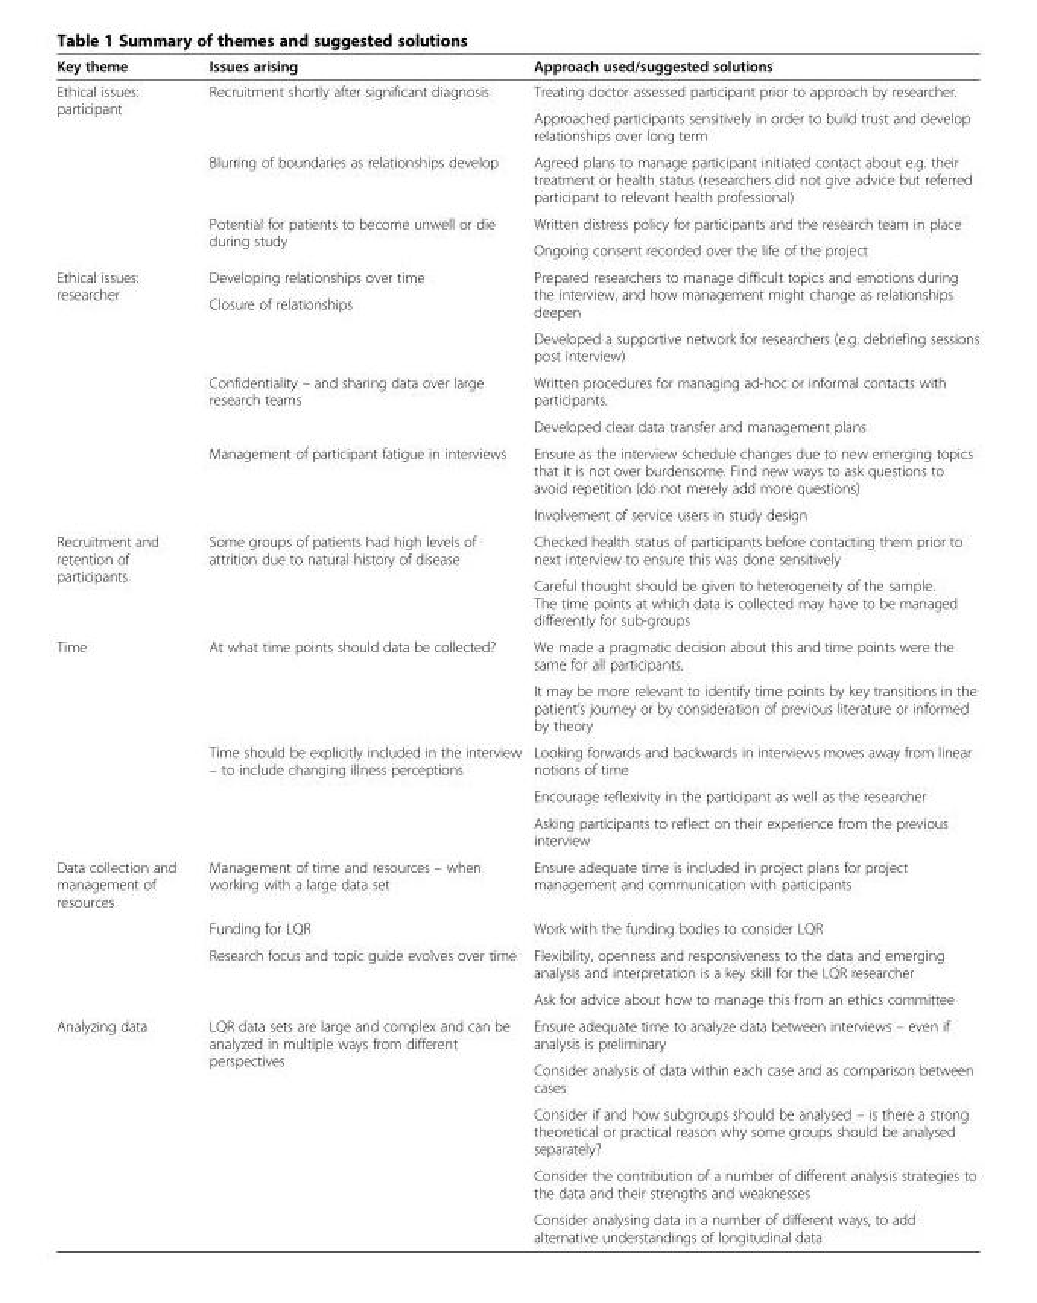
<table><thead><tr><td>Key theme</td><td>Issues arising</td><td>Approach used/suggested solutions</td></tr></thead><tbody><tr><td rowspan="5">Ethical issues: participant</td><td rowspan="2">Recruitment shortly after significant diagnosis</td><td>Treating doctor assessed participant prior to approach by researcher.</td></tr><tr><td>Approached participants sensitively in order to build trust and develop relationships over long term</td></tr><tr><td>Blurring of boundaries as relationships develop</td><td>Agreed plans to manage participant initiated contact about e.g. their treatment or health status (researchers did not give advice but referred participant to relevant health professional)</td></tr><tr><td rowspan="2">Potential for patients to become unwell or die during study</td><td>Written distress policy for participants and the research team in place</td></tr><tr><td>Ongoing consent recorded over the life of the project</td></tr><tr><td rowspan="7">Ethical issues: researcher</td><td>Developing relationships over time</td><td rowspan="2">Prepared researchers to manage difficult topics and emotions during the interview, and how management might change as relationships deepen</td></tr><tr><td rowspan="2">Closure of relationships</td></tr><tr><td>Developed a supportive network for researchers (e.g. debriefing sessions post interview)</td></tr><tr><td rowspan="2">Confidentiality – and sharing data over large research teams</td><td>Written procedures for managing ad-hoc or informal contacts with participants.</td></tr><tr><td>Developed clear data transfer and management plans</td></tr><tr><td rowspan="2">Management of participant fatigue in interviews</td><td>Ensure as the interview schedule changes due to new emerging topics that it is not over burdensome. Find new ways to ask questions to avoid repetition (do not merely add more questions)</td></tr><tr><td>Involvement of service users in study design</td></tr><tr><td rowspan="2">Recruitment and retention of participants</td><td rowspan="2">Some groups of patients had high levels of attrition due to natural history of disease</td><td>Checked health status of participants before contacting them prior to next interview to ensure this was done sensitively</td></tr><tr><td>Careful thought should be given to heterogeneity of the sample. The time points at which data is collected may have to be managed differently for sub-groups</td></tr><tr><td rowspan="5">Time</td><td rowspan="2">At what time points should data be collected?</td><td>We made a pragmatic decision about this and time points were the same for all participants.</td></tr><tr><td>It may be more relevant to identify time points by key transitions in the patient’s journey or by consideration of previous literature or informed by theory</td></tr><tr><td rowspan="3">Time should be explicitly included in the interview – to include changing illness perceptions</td><td>Looking forwards and backwards in interviews moves away from linear notions of time</td></tr><tr><td>Encourage reflexivity in the participant as well as the researcher</td></tr><tr><td>Asking participants to reflect on their experience from the previous interview</td></tr><tr><td rowspan="4">Data collection and management of resources</td><td>Management of time and resources – when working with a large data set</td><td>Ensure adequate time is included in project plans for project management and communication with participants</td></tr><tr><td>Funding for LQR</td><td>Work with the funding bodies to consider LQR</td></tr><tr><td rowspan="2">Research focus and topic guide evolves over time</td><td>Flexibility, openness and responsiveness to the data and emerging analysis and interpretation is a key skill for the LQR researcher</td></tr><tr><td>Ask for advice about how to manage this from an ethics committee</td></tr><tr><td rowspan="5">Analyzing data</td><td rowspan="5">LQR data sets are large and complex and can be analyzed in multiple ways from different perspectives</td><td>Ensure adequate time to analyze data between interviews – even if analysis is preliminary</td></tr><tr><td>Consider analysis of data within each case and as comparison between cases</td></tr><tr><td>Consider if and how subgroups should be analysed – is there a strong theoretical or practical reason why some groups should be analysed separately?</td></tr><tr><td>Consider the contribution of a number of different analysis strategies to the data and their strengths and weaknesses</td></tr><tr><td>Consider analysing data in a number of different ways, to add alternative understandings of longitudinal data</td></tr></tbody></table>